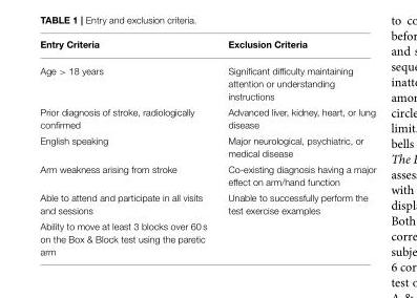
<table><thead><tr><td>Entry Criteria</td><td>Exclusion Criteria</td></tr></thead><tbody><tr><td>Age &gt; 18 years</td><td>Significant difficulty maintaining attention or understanding instructions</td></tr><tr><td>Prior diagnosis of stroke, radiologically confirmed</td><td>Advanced liver, kidney, heart, or lung disease</td></tr><tr><td>English speaking</td><td>Major neurological, psychiatric, or medical disease</td></tr><tr><td>Arm weakness arising from stroke</td><td>Co-existing diagnosis having a major effect on arm/hand function</td></tr><tr><td>Able to attend and participate in all visits and sessions</td><td>Unable to successfully perform the test exercise examples</td></tr><tr><td>Ability to move at least 3 blocks over 60 s on the Box &amp; Block test using the paretic arm</td><td></td></tr></tbody></table>